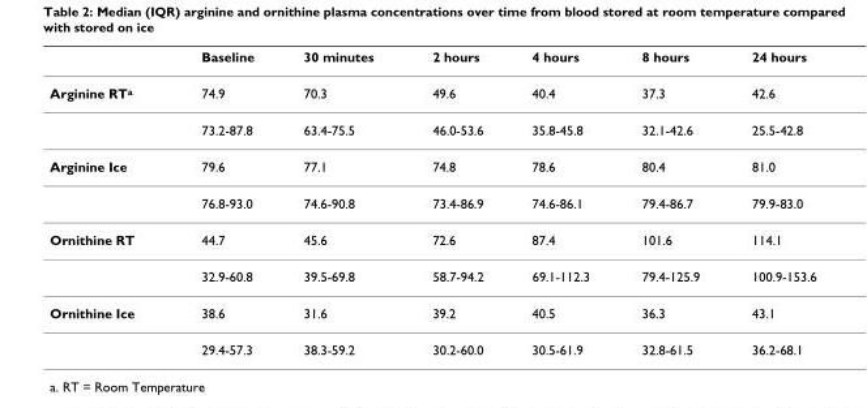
<table><thead><tr><td></td><td>Baseline</td><td>30 minutes</td><td>2 hours</td><td>4 hours</td><td>8 hours</td><td>24 hours</td></tr></thead><tbody><tr><td rowspan="2">Arginine RT<sup>a</sup></td><td>74.9</td><td>70.3</td><td>49.6</td><td>40.4</td><td>37.3</td><td>42.6</td></tr><tr><td>73.2-87.8</td><td>63.4-75.5</td><td>46.0-53.6</td><td>35.8-45.8</td><td>32.1-42.6</td><td>25.5-42.8</td></tr><tr><td rowspan="2">Arginine Ice</td><td>79.6</td><td>77.1</td><td>74.8</td><td>78.6</td><td>80.4</td><td>81.0</td></tr><tr><td>76.8-93.0</td><td>74.6-90.8</td><td>73.4-86.9</td><td>74.6-86.1</td><td>79.4-86.7</td><td>79.9-83.0</td></tr><tr><td rowspan="2">Ornithine RT</td><td>44.7</td><td>45.6</td><td>72.6</td><td>87.4</td><td>101.6</td><td>114.1</td></tr><tr><td>32.9-60.8</td><td>39.5-69.8</td><td>58.7-94.2</td><td>69.1-112.3</td><td>79.4-125.9</td><td>100.9-153.6</td></tr><tr><td rowspan="2">Ornithine Ice</td><td>38.6</td><td>31.6</td><td>39.2</td><td>40.5</td><td>36.3</td><td>43.1</td></tr><tr><td>29.4-57.3</td><td>38.3-59.2</td><td>30.2-60.0</td><td>30.5-61.9</td><td>32.8-61.5</td><td>36.2-68.1</td></tr></tbody></table>